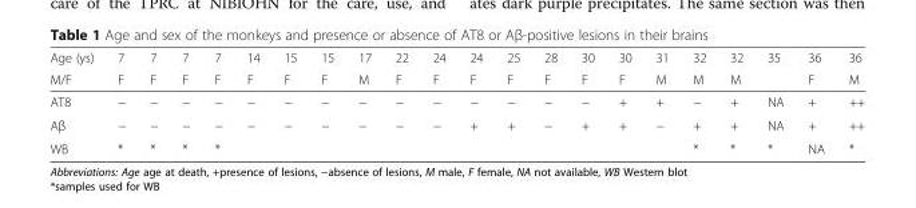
<table><thead><tr><td rowspan="2">Age (ys) M/F</td><td rowspan="2">7 F</td><td rowspan="2">7 F</td><td rowspan="2">7 F</td><td rowspan="2">7 F</td><td rowspan="2">14 F</td><td rowspan="2">15 F</td><td rowspan="2">15 F</td><td rowspan="2">17 M</td><td rowspan="2">22 F</td><td rowspan="2">24 F</td><td rowspan="2">24 F</td><td rowspan="2">25 F</td><td rowspan="2">28 F</td><td rowspan="2">30 F</td><td rowspan="2">30 F</td><td rowspan="2">31 M</td><td rowspan="2">32 M</td><td rowspan="2">32 M</td><td rowspan="2">35</td><td rowspan="2">36 F</td><td rowspan="2">36 M</td></tr><tr></tr></thead><tbody><tr><td>AT8</td><td>−</td><td>−</td><td>−</td><td>−</td><td>−</td><td>−</td><td>−</td><td>−</td><td>−</td><td>−</td><td>−</td><td>−</td><td>−</td><td>−</td><td>+</td><td>+</td><td>−</td><td>+</td><td>NA</td><td>+</td><td>++</td></tr><tr><td>Aβ</td><td>−</td><td>−</td><td>−</td><td>−</td><td>−</td><td>−</td><td>−</td><td>−</td><td>−</td><td>−</td><td>+</td><td>+</td><td>−</td><td>+</td><td>+</td><td>−</td><td>+</td><td>+</td><td>NA</td><td>+</td><td>++</td></tr><tr><td>WB</td><td>*</td><td>*</td><td>*</td><td>*</td><td></td><td></td><td></td><td></td><td></td><td></td><td></td><td></td><td></td><td></td><td></td><td></td><td>*</td><td>*</td><td>*</td><td>NA</td><td>*</td></tr></tbody></table>